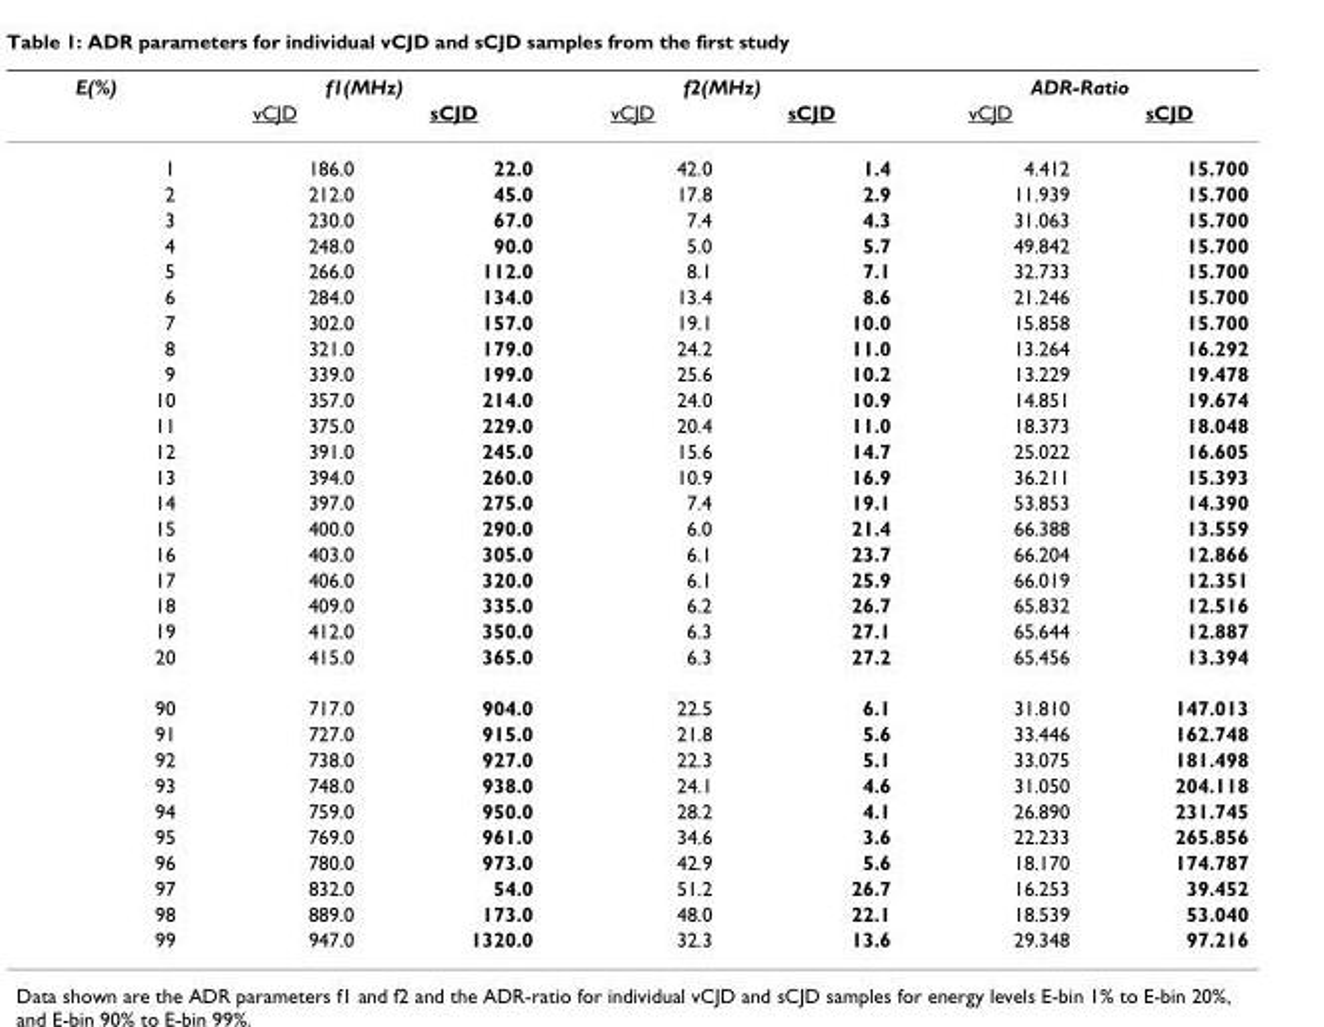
<table><thead><tr><td rowspan="2">E(%)</td><td colspan="2">f1(MHz)</td><td colspan="2">f2(MHz)</td><td colspan="2">ADR-Ratio</td></tr><tr><td>vCJD</td><td>sCJD</td><td>vCJD</td><td>sCJD</td><td>vCJD</td><td>sCJD</td></tr></thead><tbody><tr><td>1</td><td>186.0</td><td>22.0</td><td>42.0</td><td>1.4</td><td>4.412</td><td>15.700</td></tr><tr><td>2</td><td>212.0</td><td>45.0</td><td>17.8</td><td>2.9</td><td>11.939</td><td>15.700</td></tr><tr><td>3</td><td>230.0</td><td>67.0</td><td>7.4</td><td>4.3</td><td>31.063</td><td>15.700</td></tr><tr><td>4</td><td>248.0</td><td>90.0</td><td>5.0</td><td>5.7</td><td>49.842</td><td>15.700</td></tr><tr><td>5</td><td>266.0</td><td>112.0</td><td>8.1</td><td>7.1</td><td>32.733</td><td>15.700</td></tr><tr><td>6</td><td>284.0</td><td>134.0</td><td>13.4</td><td>8.6</td><td>21.246</td><td>15.700</td></tr><tr><td>7</td><td>302.0</td><td>157.0</td><td>19.1</td><td>10.0</td><td>15.858</td><td>15.700</td></tr><tr><td>8</td><td>321.0</td><td>179.0</td><td>24.2</td><td>11.0</td><td>13.264</td><td>16.292</td></tr><tr><td>9</td><td>339.0</td><td>199.0</td><td>25.6</td><td>10.2</td><td>13.229</td><td>19.478</td></tr><tr><td>10</td><td>357.0</td><td>214.0</td><td>24.0</td><td>10.9</td><td>14.851</td><td>19.674</td></tr><tr><td>11</td><td>375.0</td><td>229.0</td><td>20.4</td><td>11.0</td><td>18.373</td><td>18.048</td></tr><tr><td>12</td><td>391.0</td><td>245.0</td><td>15.6</td><td>14.7</td><td>25.022</td><td>16.605</td></tr><tr><td>13</td><td>394.0</td><td>260.0</td><td>10.9</td><td>16.9</td><td>36.211</td><td>15.393</td></tr><tr><td>14</td><td>397.0</td><td>275.0</td><td>7.4</td><td>19.1</td><td>53.853</td><td>14.390</td></tr><tr><td>15</td><td>400.0</td><td>290.0</td><td>6.0</td><td>21.4</td><td>66.388</td><td>13.559</td></tr><tr><td>16</td><td>403.0</td><td>305.0</td><td>6.1</td><td>23.7</td><td>66.204</td><td>12.866</td></tr><tr><td>17</td><td>406.0</td><td>320.0</td><td>6.1</td><td>25.9</td><td>66.019</td><td>12.351</td></tr><tr><td>18</td><td>409.0</td><td>335.0</td><td>6.2</td><td>26.7</td><td>65.832</td><td>12.516</td></tr><tr><td>19</td><td>412.0</td><td>350.0</td><td>6.3</td><td>27.1</td><td>65.644</td><td>12.887</td></tr><tr><td>20</td><td>415.0</td><td>365.0</td><td>6.3</td><td>27.2</td><td>65.456</td><td>13.394</td></tr><tr><td>90</td><td>717.0</td><td>904.0</td><td>22.5</td><td>6.1</td><td>31.810</td><td>147.013</td></tr><tr><td>91</td><td>727.0</td><td>915.0</td><td>21.8</td><td>5.6</td><td>33.446</td><td>162.748</td></tr><tr><td>92</td><td>738.0</td><td>927.0</td><td>22.3</td><td>5.1</td><td>33.075</td><td>181.498</td></tr><tr><td>93</td><td>748.0</td><td>938.0</td><td>24.1</td><td>4.6</td><td>31.050</td><td>204.118</td></tr><tr><td>94</td><td>759.0</td><td>950.0</td><td>28.2</td><td>4.1</td><td>26.890</td><td>231.745</td></tr><tr><td>95</td><td>769.0</td><td>961.0</td><td>34.6</td><td>3.6</td><td>22.233</td><td>265.856</td></tr><tr><td>96</td><td>780.0</td><td>973.0</td><td>42.9</td><td>5.6</td><td>18.170</td><td>174.787</td></tr><tr><td>97</td><td>832.0</td><td>54.0</td><td>51.2</td><td>26.7</td><td>16.253</td><td>39.452</td></tr><tr><td>98</td><td>889.0</td><td>173.0</td><td>48.0</td><td>22.1</td><td>18.539</td><td>53.040</td></tr><tr><td>99</td><td>947.0</td><td>1320.0</td><td>32.3</td><td>13.6</td><td>29.348</td><td>97.216</td></tr></tbody></table>